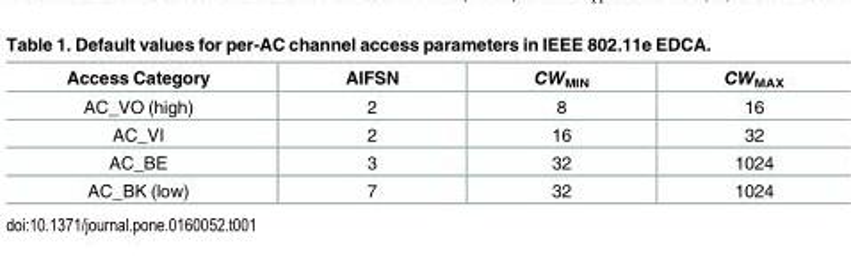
<table><thead><tr><td>Access Category</td><td>AIFSN</td><td>CW<sub>MIN</sub></td><td>CW<sub>MAX</sub></td></tr></thead><tbody><tr><td>AC_VO (high)</td><td>2</td><td>8</td><td>16</td></tr><tr><td>AC_VI</td><td>2</td><td>16</td><td>32</td></tr><tr><td>AC_BE</td><td>3</td><td>32</td><td>1024</td></tr><tr><td>AC_BK (low)</td><td>7</td><td>32</td><td>1024</td></tr></tbody></table>